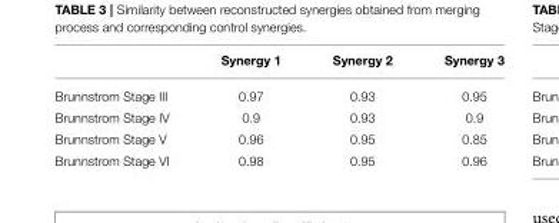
<table><thead><tr><td></td><td>Synergy 1</td><td>Synergy 2</td><td>Synergy 3</td></tr></thead><tbody><tr><td>Brunnstrom Stage III</td><td>0.97</td><td>0.93</td><td>0.95</td></tr><tr><td>Brunnstrom Stage IV</td><td>0.9</td><td>0.93</td><td>0.9</td></tr><tr><td>Brunnstrom Stage V</td><td>0.96</td><td>0.95</td><td>0.85</td></tr><tr><td>Brunnstrom Stage VI</td><td>0.98</td><td>0.95</td><td>0.96</td></tr></tbody></table>